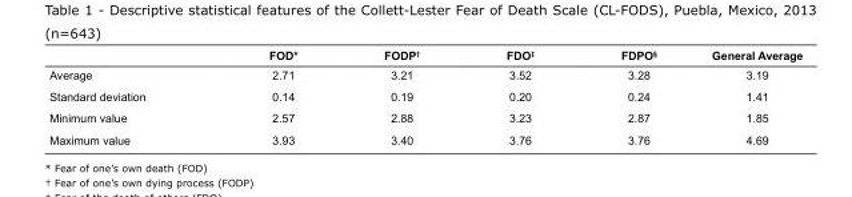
<table><thead><tr><td></td><td>FOD*</td><td>FODP<sup>†</sup></td><td>FDO<sup>‡</sup></td><td>FDPO<sup>§</sup></td><td>General Average</td></tr></thead><tbody><tr><td>Average</td><td>2.71</td><td>3.21</td><td>3.52</td><td>3.28</td><td>3.19</td></tr><tr><td>Standard deviation</td><td>0.14</td><td>0.19</td><td>0.20</td><td>0.24</td><td>1.41</td></tr><tr><td>Minimum value</td><td>2.57</td><td>2.88</td><td>3.23</td><td>2.87</td><td>1.85</td></tr><tr><td>Maximum value</td><td>3.93</td><td>3.40</td><td>3.76</td><td>3.76</td><td>4.69</td></tr></tbody></table>